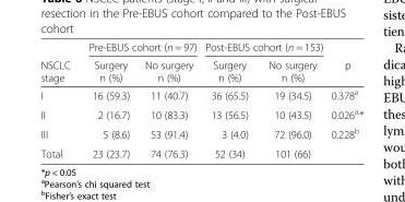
<table><thead><tr><td rowspan="2">NSCLC stage</td><td colspan="2">Pre-EBUS cohort (n = 97)</td><td colspan="2">Post-EBUS cohort (n = 153)</td><td rowspan="2">p</td></tr><tr><td>Surgery n (%)</td><td>No surgery n (%)</td><td>Surgery n (%)</td><td>No surgery n (%)</td></tr></thead><tbody><tr><td>I</td><td>16 (59.3)</td><td>11 (40.7)</td><td>36 (65.5)</td><td>19 (34.5)</td><td>0.378<sup>a</sup></td></tr><tr><td>II</td><td>2 (16.7)</td><td>10 (83.3)</td><td>13 (56.5)</td><td>10 (43.5)</td><td>0.026<sup>a,</sup>*</td></tr><tr><td>III</td><td>5 (8.6)</td><td>53 (91.4)</td><td>3 (4.0)</td><td>72 (96.0)</td><td>0.228<sup>b</sup></td></tr><tr><td>Total</td><td>23 (23.7)</td><td>74 (76.3)</td><td>52 (34)</td><td>101 (66)</td><td></td></tr></tbody></table>